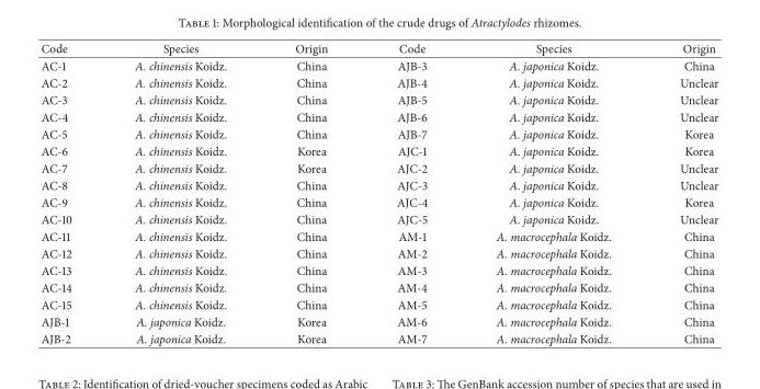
<table><thead><tr><td>Code</td><td>Species</td><td>Origin</td><td>Code</td><td>Species</td><td>Origin</td></tr></thead><tbody><tr><td>AC-1</td><td>A. chinensis Koidz.</td><td>China</td><td>AJB-3</td><td>A. japonica Koidz.</td><td>China</td></tr><tr><td>AC-2</td><td>A. chinensis Koidz.</td><td>China</td><td>AJB-4</td><td>A. japonica Koidz.</td><td>Unclear</td></tr><tr><td>AC-3</td><td>A. chinensis Koidz.</td><td>China</td><td>AJB-5</td><td>A. japonica Koidz.</td><td>Unclear</td></tr><tr><td>AC-4</td><td>A. chinensis Koidz.</td><td>China</td><td>AJB-6</td><td>A. japonica Koidz.</td><td>Unclear</td></tr><tr><td>AC-5</td><td>A. chinensis Koidz.</td><td>China</td><td>AJB-7</td><td>A. japonica Koidz.</td><td>Korea</td></tr><tr><td>AC-6</td><td>A. chinensis Koidz.</td><td>Korea</td><td>AJC-1</td><td>A. japonica Koidz.</td><td>Korea</td></tr><tr><td>AC-7</td><td>A. chinensis Koidz.</td><td>Korea</td><td>AJC-2</td><td>A. japonica Koidz.</td><td>Unclear</td></tr><tr><td>AC-8</td><td>A. chinensis Koidz.</td><td>China</td><td>AJC-3</td><td>A. japonica Koidz.</td><td>Unclear</td></tr><tr><td>AC-9</td><td>A. chinensis Koidz.</td><td>China</td><td>AJC-4</td><td>A. japonica Koidz.</td><td>Korea</td></tr><tr><td>AC-10</td><td>A. chinensis Koidz.</td><td>China</td><td>AJC-5</td><td>A. japonica Koidz.</td><td>Unclear</td></tr><tr><td>AC-11</td><td>A. chinensis Koidz.</td><td>China</td><td>AM-1</td><td>A. macrocephala Koidz.</td><td>China</td></tr><tr><td>AC-12</td><td>A. chinensis Koidz.</td><td>China</td><td>AM-2</td><td>A. macrocephala Koidz.</td><td>China</td></tr><tr><td>AC-13</td><td>A. chinensis Koidz.</td><td>China</td><td>AM-3</td><td>A. macrocephala Koidz.</td><td>China</td></tr><tr><td>AC-14</td><td>A. chinensis Koidz.</td><td>China</td><td>AM-4</td><td>A. macrocephala Koidz.</td><td>China</td></tr><tr><td>AC-15</td><td>A. chinensis Koidz.</td><td>China</td><td>AM-5</td><td>A. macrocephala Koidz.</td><td>China</td></tr><tr><td>AJB-1</td><td>A. japonica Koidz.</td><td>Korea</td><td>AM-6</td><td>A. macrocephala Koidz.</td><td>China</td></tr><tr><td>AJB-2</td><td>A. japonica Koidz.</td><td>Korea</td><td>AM-7</td><td>A. macrocephala Koidz.</td><td>China</td></tr></tbody></table>